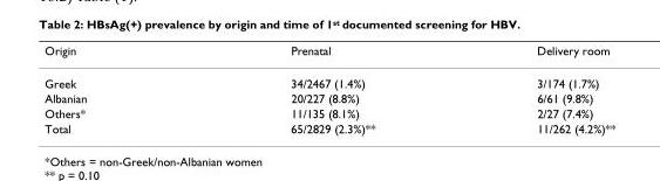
<table><thead><tr><td>Origin</td><td>Prenatal</td><td>Delivery room</td></tr></thead><tbody><tr><td>Greek</td><td>34/2467 (1.4%)</td><td>3/174 (1.7%)</td></tr><tr><td>Albanian</td><td>20/227 (8.8%)</td><td>6/61 (9.8%)</td></tr><tr><td>Others*</td><td>11/135 (8.1%)</td><td>2/27 (7.4%)</td></tr><tr><td>Total</td><td>65/2829 (2.3%)**</td><td>11/262 (4.2%)**</td></tr></tbody></table>